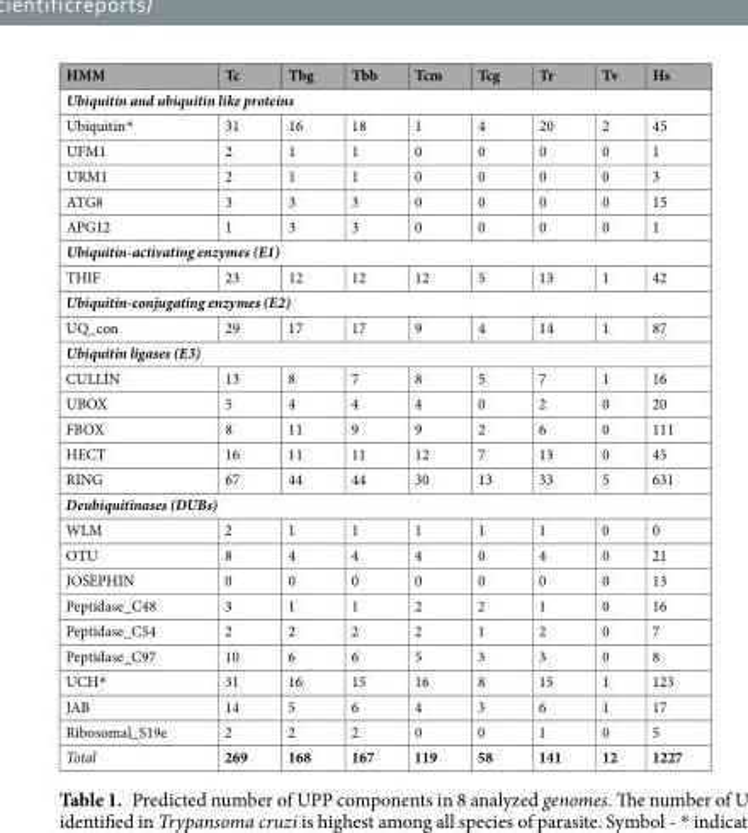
<table><thead><tr><td>HMM</td><td>Tc</td><td>Tbg</td><td>Tbb</td><td>Tcm</td><td>Tcg</td><td>Tr</td><td>Tv</td><td>Hs</td></tr></thead><tbody><tr><td colspan="9">Ubiquitin and ubiquitin like proteins</td></tr><tr><td>Ubiquitin*</td><td>31</td><td>16</td><td>18</td><td>1</td><td>4</td><td>20</td><td>2</td><td>45</td></tr><tr><td>UFM1</td><td>2</td><td>1</td><td>1</td><td>0</td><td>0</td><td>0</td><td>0</td><td>1</td></tr><tr><td>URM1</td><td>2</td><td>1</td><td>1</td><td>0</td><td>0</td><td>0</td><td>0</td><td>3</td></tr><tr><td>ATG8</td><td>3</td><td>3</td><td>3</td><td>0</td><td>0</td><td>0</td><td>0</td><td>15</td></tr><tr><td>APG12</td><td>1</td><td>3</td><td>3</td><td>0</td><td>0</td><td>0</td><td>0</td><td>1</td></tr><tr><td colspan="9">Ubiquitin-activating enzymes (E1)</td></tr><tr><td>THIF</td><td>23</td><td>12</td><td>12</td><td>12</td><td>5</td><td>13</td><td>1</td><td>42</td></tr><tr><td colspan="9">Ubiquitin-conjugating enzymes (E2)</td></tr><tr><td>UQ_con</td><td>29</td><td>17</td><td>17</td><td>9</td><td>4</td><td>14</td><td>1</td><td>87</td></tr><tr><td colspan="9">Ubiquitin ligases (E3)</td></tr><tr><td>CULLIN</td><td>13</td><td>8</td><td>7</td><td>8</td><td>5</td><td>7</td><td>1</td><td>16</td></tr><tr><td>UBOX</td><td>5</td><td>4</td><td>4</td><td>4</td><td>0</td><td>2</td><td>0</td><td>20</td></tr><tr><td>FBOX</td><td>8</td><td>11</td><td>9</td><td>9</td><td>2</td><td>6</td><td>0</td><td>111</td></tr><tr><td>HECT</td><td>16</td><td>11</td><td>11</td><td>12</td><td>7</td><td>13</td><td>0</td><td>45</td></tr><tr><td>RING</td><td>67</td><td>44</td><td>44</td><td>30</td><td>13</td><td>33</td><td>5</td><td>631</td></tr><tr><td colspan="9">Deubiquitinases (DUBs)</td></tr><tr><td>WLM</td><td>2</td><td>1</td><td>1</td><td>1</td><td>1</td><td>1</td><td>0</td><td>0</td></tr><tr><td>OTU</td><td>8</td><td>4</td><td>4</td><td>4</td><td>0</td><td>4</td><td>0</td><td>21</td></tr><tr><td>JOSEPHIN</td><td>0</td><td>0</td><td>0</td><td>0</td><td>0</td><td>0</td><td>0</td><td>13</td></tr><tr><td>Peptidase_C48</td><td>3</td><td>1</td><td>1</td><td>2</td><td>2</td><td>1</td><td>0</td><td>16</td></tr><tr><td>Peptidase_C54</td><td>2</td><td>2</td><td>2</td><td>2</td><td>1</td><td>2</td><td>0</td><td>7</td></tr><tr><td>Peptidase_C97</td><td>10</td><td>6</td><td>6</td><td>5</td><td>3</td><td>3</td><td>0</td><td>8</td></tr><tr><td>UCH*</td><td>31</td><td>16</td><td>15</td><td>16</td><td>8</td><td>15</td><td>1</td><td>123</td></tr><tr><td>JAB</td><td>14</td><td>5</td><td>6</td><td>4</td><td>3</td><td>6</td><td>1</td><td>17</td></tr><tr><td>Ribosomal_S19e</td><td>2</td><td>2</td><td>2</td><td>0</td><td>0</td><td>1</td><td>0</td><td>5</td></tr><tr><td>Total</td><td>269</td><td>168</td><td>167</td><td>119</td><td>58</td><td>141</td><td>12</td><td>1227</td></tr></tbody></table>